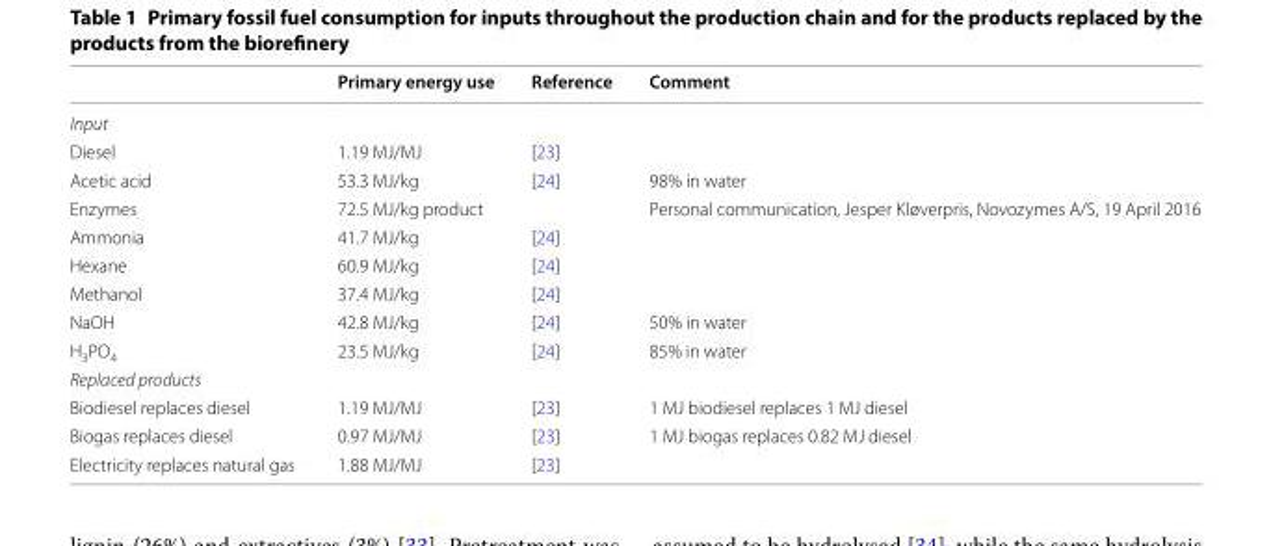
<table><thead><tr><td></td><td>Primary energy use</td><td>Reference</td><td>Comment</td></tr></thead><tbody><tr><td colspan="4">Input</td></tr><tr><td>Diesel</td><td>1.19 MJ/MJ</td><td>[23]</td><td></td></tr><tr><td>Acetic acid</td><td>53.3 MJ/kg</td><td>[24]</td><td>98% in water</td></tr><tr><td>Enzymes</td><td>72.5 MJ/kg product</td><td></td><td>Personal communication, Jesper Kløverpris, Novozymes A/S, 19 April 2016</td></tr><tr><td>Ammonia</td><td>41.7 MJ/kg</td><td>[24]</td><td></td></tr><tr><td>Hexane</td><td>60.9 MJ/kg</td><td>[24]</td><td></td></tr><tr><td>Methanol</td><td>37.4 MJ/kg</td><td>[24]</td><td></td></tr><tr><td>NaOH</td><td>42.8 MJ/kg</td><td>[24]</td><td>50% in water</td></tr><tr><td>H<sub>3</sub>PO<sub>4</sub></td><td>23.5 MJ/kg</td><td>[24]</td><td>85% in water</td></tr><tr><td colspan="4">Replaced products</td></tr><tr><td>Biodiesel replaces diesel</td><td>1.19 MJ/MJ</td><td>[23]</td><td>1 MJ biodiesel replaces 1 MJ diesel</td></tr><tr><td>Biogas replaces diesel</td><td>0.97 MJ/MJ</td><td>[23]</td><td>1 MJ biogas replaces 0.82 MJ diesel</td></tr><tr><td>Electricity replaces natural gas</td><td>1.88 MJ/MJ</td><td>[23]</td><td></td></tr></tbody></table>